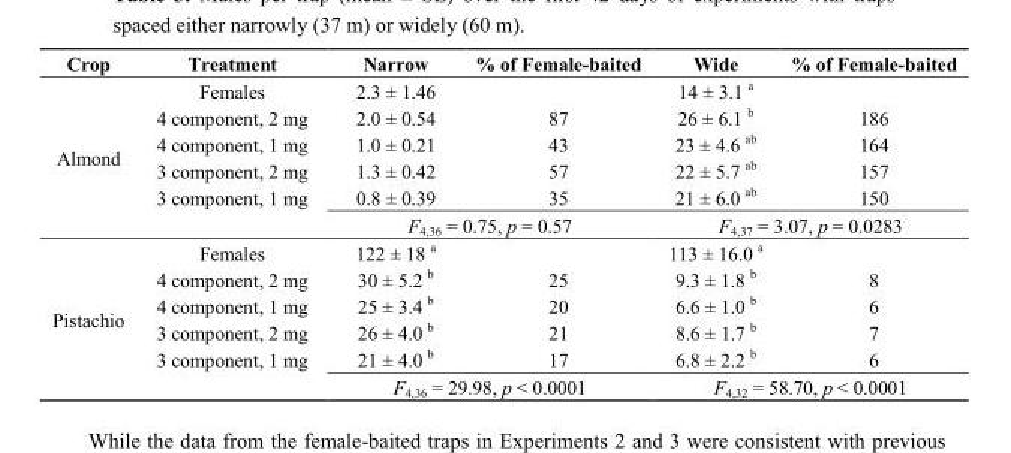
<table><thead><tr><td>Crop</td><td>Treatment</td><td>Narrow</td><td>% of Female-baited</td><td>Wide</td><td>% of Female-baited</td></tr></thead><tbody><tr><td rowspan="6">Almond</td><td>Females</td><td>2.3 ± 1.46</td><td></td><td>14 ± 3.1 <sup>a</sup></td><td></td></tr><tr><td>4 component, 2 mg</td><td>2.0 ± 0.54</td><td>87</td><td>26 ± 6.1 <sup>b</sup></td><td>186</td></tr><tr><td>4 component, 1 mg</td><td>1.0 ± 0.21</td><td>43</td><td>23 ± 4.6 <sup>ab</sup></td><td>164</td></tr><tr><td>3 component, 2 mg</td><td>1.3 ± 0.42</td><td>57</td><td>22 ± 5.7 <sup>ab</sup></td><td>157</td></tr><tr><td>3 component, 1 mg</td><td>0.8 ± 0.39</td><td>35</td><td>21 ± 6.0 <sup>ab</sup></td><td>150</td></tr><tr><td></td><td colspan="2">F<sub>4,36</sub> = 0.75, p = 0.57</td><td colspan="2">F<sub>4,37</sub> = 3.07, p = 0.0283</td></tr><tr><td rowspan="6">Pistachio</td><td>Females</td><td>122 ± 18 <sup>a</sup></td><td></td><td>113 ± 16.0 <sup>a</sup></td><td></td></tr><tr><td>4 component, 2 mg</td><td>30 ± 5.2 <sup>b</sup></td><td>25</td><td>9.3 ± 1.8 <sup>b</sup></td><td>8</td></tr><tr><td>4 component, 1 mg</td><td>25 ± 3.4 <sup>b</sup></td><td>20</td><td>6.6 ± 1.0 <sup>b</sup></td><td>6</td></tr><tr><td>3 component, 2 mg</td><td>26 ± 4.0 <sup>b</sup></td><td>21</td><td>8.6 ± 1.7 <sup>b</sup></td><td>7</td></tr><tr><td>3 component, 1 mg</td><td>21 ± 4.0 <sup>b</sup></td><td>17</td><td>6.8 ± 2.2 <sup>b</sup></td><td>6</td></tr><tr><td></td><td colspan="2">F<sub>4,36</sub> = 29.98, p &lt; 0.0001</td><td colspan="2">F<sub>4,32</sub> = 58.70, p &lt; 0.0001</td></tr></tbody></table>